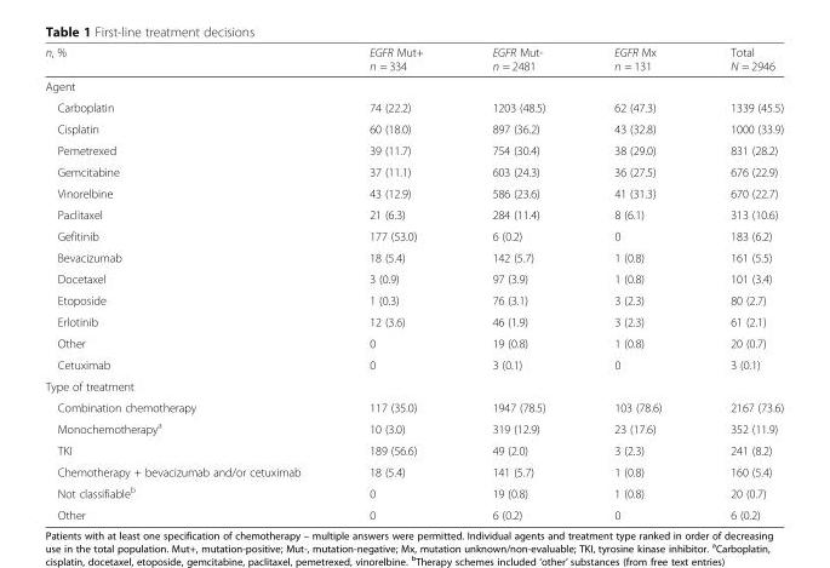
<table><thead><tr><td>n, %</td><td>EGFR Mut+ n = 334</td><td>EGFR Mut- n = 2481</td><td>EGFR Mx n = 131</td><td>Total N = 2946</td></tr></thead><tbody><tr><td colspan="5">Agent</td></tr><tr><td>Carboplatin</td><td>74 (22.2)</td><td>1203 (48.5)</td><td>62 (47.3)</td><td>1339 (45.5)</td></tr><tr><td>Cisplatin</td><td>60 (18.0)</td><td>897 (36.2)</td><td>43 (32.8)</td><td>1000 (33.9)</td></tr><tr><td>Pemetrexed</td><td>39 (11.7)</td><td>754 (30.4)</td><td>38 (29.0)</td><td>831 (28.2)</td></tr><tr><td>Gemcitabine</td><td>37 (11.1)</td><td>603 (24.3)</td><td>36 (27.5)</td><td>676 (22.9)</td></tr><tr><td>Vinorelbine</td><td>43 (12.9)</td><td>586 (23.6)</td><td>41 (31.3)</td><td>670 (22.7)</td></tr><tr><td>Paclitaxel</td><td>21 (6.3)</td><td>284 (11.4)</td><td>8 (6.1)</td><td>313 (10.6)</td></tr><tr><td>Gefitinib</td><td>177 (53.0)</td><td>6 (0.2)</td><td>0</td><td>183 (6.2)</td></tr><tr><td>Bevacizumab</td><td>18 (5.4)</td><td>142 (5.7)</td><td>1 (0.8)</td><td>161 (5.5)</td></tr><tr><td>Docetaxel</td><td>3 (0.9)</td><td>97 (3.9)</td><td>1 (0.8)</td><td>101 (3.4)</td></tr><tr><td>Etoposide</td><td>1 (0.3)</td><td>76 (3.1)</td><td>3 (2.3)</td><td>80 (2.7)</td></tr><tr><td>Erlotinib</td><td>12 (3.6)</td><td>46 (1.9)</td><td>3 (2.3)</td><td>61 (2.1)</td></tr><tr><td>Other</td><td>0</td><td>19 (0.8)</td><td>1 (0.8)</td><td>20 (0.7)</td></tr><tr><td>Cetuximab</td><td>0</td><td>3 (0.1)</td><td>0</td><td>3 (0.1)</td></tr><tr><td colspan="5">Type of treatment</td></tr><tr><td>Combination chemotherapy</td><td>117 (35.0)</td><td>1947 (78.5)</td><td>103 (78.6)</td><td>2167 (73.6)</td></tr><tr><td>Monochemotherapy<sup>a</sup></td><td>10 (3.0)</td><td>319 (12.9)</td><td>23 (17.6)</td><td>352 (11.9)</td></tr><tr><td>TKI</td><td>189 (56.6)</td><td>49 (2.0)</td><td>3 (2.3)</td><td>241 (8.2)</td></tr><tr><td>Chemotherapy + bevacizumab and/or cetuximab</td><td>18 (5.4)</td><td>141 (5.7)</td><td>1 (0.8)</td><td>160 (5.4)</td></tr><tr><td>Not classifiable<sup>b</sup></td><td>0</td><td>19 (0.8)</td><td>1 (0.8)</td><td>20 (0.7)</td></tr><tr><td>Other</td><td>0</td><td>6 (0.2)</td><td>0</td><td>6 (0.2)</td></tr></tbody></table>